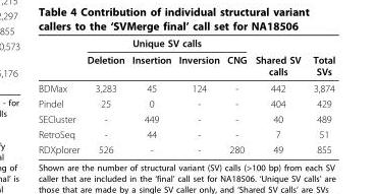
<table><thead><tr><td rowspan="2"></td><td colspan="4">Unique SV calls</td><td rowspan="2">Shared SV calls</td><td rowspan="2">Total SVs</td></tr><tr><td>Deletion</td><td>Insertion</td><td>Inversion</td><td>CNG</td></tr></thead><tbody><tr><td>BDMax</td><td>3,283</td><td>45</td><td>124</td><td>-</td><td>442</td><td>3,874</td></tr><tr><td>Pindel</td><td>25</td><td>0</td><td>-</td><td>-</td><td>404</td><td>429</td></tr><tr><td>SECluster</td><td>-</td><td>449</td><td>-</td><td>-</td><td>40</td><td>489</td></tr><tr><td>RetroSeq</td><td>-</td><td>44</td><td>-</td><td>-</td><td>7</td><td>51</td></tr><tr><td>RDXplorer</td><td>526</td><td>-</td><td>-</td><td>280</td><td>49</td><td>855</td></tr></tbody></table>